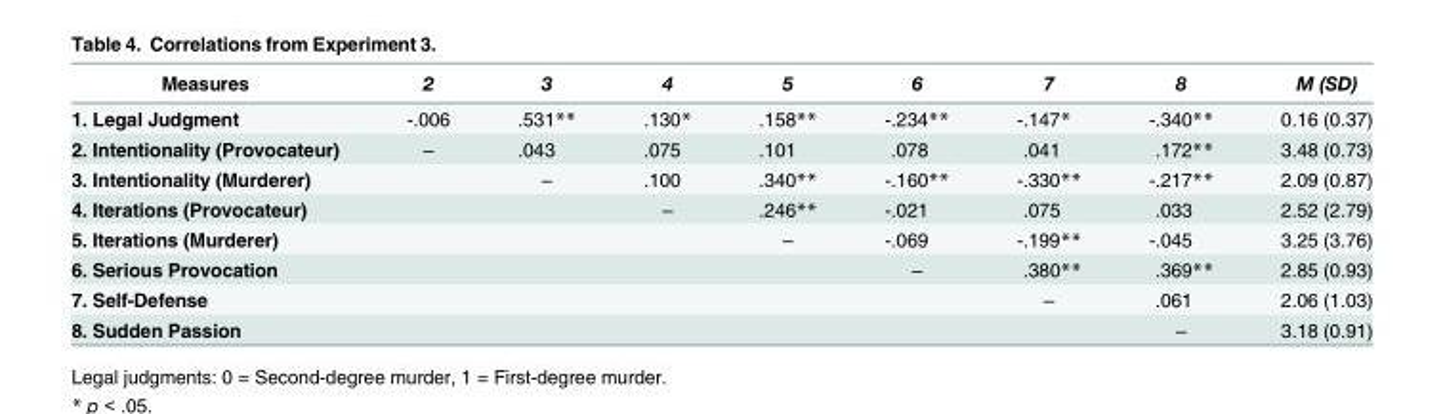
<table><thead><tr><td>Measures</td><td>2</td><td>3</td><td>4</td><td>5</td><td>6</td><td>7</td><td>8</td><td>M (SD)</td></tr></thead><tbody><tr><td>1. Legal Judgment</td><td>-.006</td><td>.531**</td><td>.130*</td><td>.158**</td><td>-.234**</td><td>-.147*</td><td>-.340**</td><td>0.16 (0.37)</td></tr><tr><td>2. Intentionality (Provocateur)</td><td>–</td><td>.043</td><td>.075</td><td>.101</td><td>.078</td><td>.041</td><td>.172**</td><td>3.48 (0.73)</td></tr><tr><td>3. Intentionality (Murderer)</td><td></td><td>–</td><td>.100</td><td>.340**</td><td>-.160**</td><td>-.330**</td><td>-.217**</td><td>2.09 (0.87)</td></tr><tr><td>4. Iterations (Provocateur)</td><td></td><td></td><td>–</td><td>.246**</td><td>-.021</td><td>.075</td><td>.033</td><td>2.52 (2.79)</td></tr><tr><td>5. Iterations (Murderer)</td><td></td><td></td><td></td><td>–</td><td>-.069</td><td>-.199**</td><td>-.045</td><td>3.25 (3.76)</td></tr><tr><td>6. Serious Provocation</td><td></td><td></td><td></td><td></td><td>–</td><td>.380**</td><td>.369**</td><td>2.85 (0.93)</td></tr><tr><td>7. Self-Defense</td><td></td><td></td><td></td><td></td><td></td><td>–</td><td>.061</td><td>2.06 (1.03)</td></tr><tr><td>8. Sudden Passion</td><td></td><td></td><td></td><td></td><td></td><td></td><td>–</td><td>3.18 (0.91)</td></tr></tbody></table>